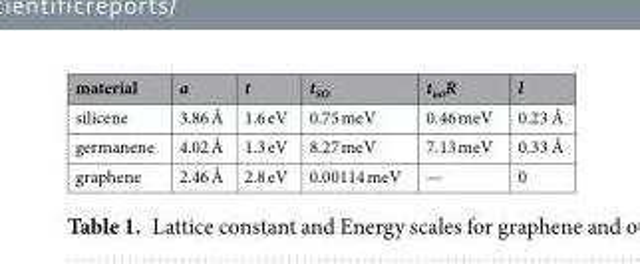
<table><thead><tr><td>material</td><td>a</td><td>t</td><td>t<sub>SO</sub></td><td>t<sub>int</sub>R</td><td>l</td></tr></thead><tbody><tr><td>silicene</td><td>3.86 Å</td><td>1.6 eV</td><td>0.75 meV</td><td>0.46 meV</td><td>0.23 Å</td></tr><tr><td>germanene</td><td>4.02 Å</td><td>1.3 eV</td><td>8.27 meV</td><td>7.13 meV</td><td>0.33 Å</td></tr><tr><td>graphene</td><td>2.46 Å</td><td>2.8 eV</td><td>0.00114 meV</td><td>—</td><td>0</td></tr></tbody></table>